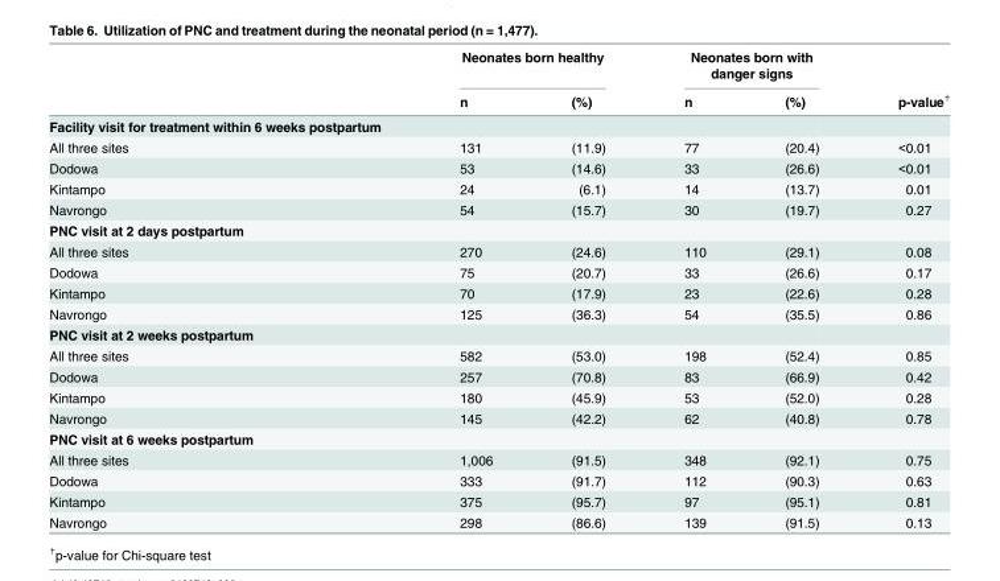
<table><thead><tr><td rowspan="2"></td><td colspan="2">Neonates born healthy</td><td colspan="2">Neonates born with danger signs</td><td rowspan="2">p-value<sup>✝</sup></td></tr><tr><td>n</td><td>(%)</td><td>n</td><td>(%)</td></tr></thead><tbody><tr><td colspan="6">Facility visit for treatment within 6 weeks postpartum</td></tr><tr><td>All three sites</td><td>131</td><td>(11.9)</td><td>77</td><td>(20.4)</td><td>&lt;0.01</td></tr><tr><td>Dodowa</td><td>53</td><td>(14.6)</td><td>33</td><td>(26.6)</td><td>&lt;0.01</td></tr><tr><td>Kintampo</td><td>24</td><td>(6.1)</td><td>14</td><td>(13.7)</td><td>0.01</td></tr><tr><td>Navrongo</td><td>54</td><td>(15.7)</td><td>30</td><td>(19.7)</td><td>0.27</td></tr><tr><td colspan="6">PNC visit at 2 days postpartum</td></tr><tr><td>All three sites</td><td>270</td><td>(24.6)</td><td>110</td><td>(29.1)</td><td>0.08</td></tr><tr><td>Dodowa</td><td>75</td><td>(20.7)</td><td>33</td><td>(26.6)</td><td>0.17</td></tr><tr><td>Kintampo</td><td>70</td><td>(17.9)</td><td>23</td><td>(22.6)</td><td>0.28</td></tr><tr><td>Navrongo</td><td>125</td><td>(36.3)</td><td>54</td><td>(35.5)</td><td>0.86</td></tr><tr><td colspan="6">PNC visit at 2 weeks postpartum</td></tr><tr><td>All three sites</td><td>582</td><td>(53.0)</td><td>198</td><td>(52.4)</td><td>0.85</td></tr><tr><td>Dodowa</td><td>257</td><td>(70.8)</td><td>83</td><td>(66.9)</td><td>0.42</td></tr><tr><td>Kintampo</td><td>180</td><td>(45.9)</td><td>53</td><td>(52.0)</td><td>0.28</td></tr><tr><td>Navrongo</td><td>145</td><td>(42.2)</td><td>62</td><td>(40.8)</td><td>0.78</td></tr><tr><td colspan="6">PNC visit at 6 weeks postpartum</td></tr><tr><td>All three sites</td><td>1,006</td><td>(91.5)</td><td>348</td><td>(92.1)</td><td>0.75</td></tr><tr><td>Dodowa</td><td>333</td><td>(91.7)</td><td>112</td><td>(90.3)</td><td>0.63</td></tr><tr><td>Kintampo</td><td>375</td><td>(95.7)</td><td>97</td><td>(95.1)</td><td>0.81</td></tr><tr><td>Navrongo</td><td>298</td><td>(86.6)</td><td>139</td><td>(91.5)</td><td>0.13</td></tr></tbody></table>